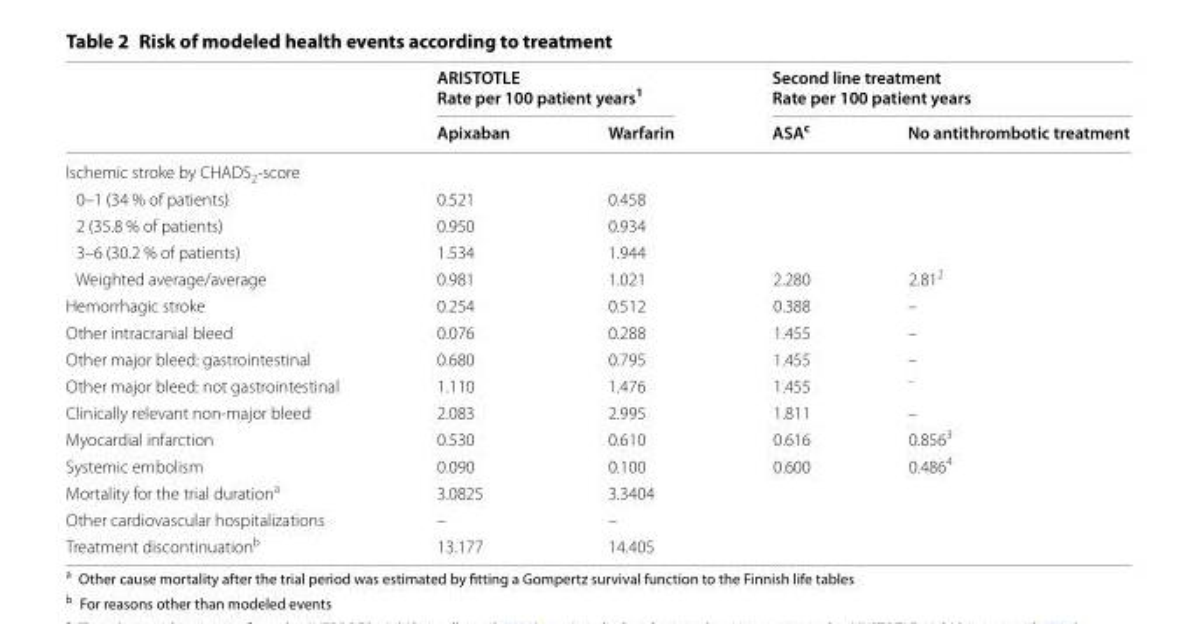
<table><thead><tr><td rowspan="2"></td><td colspan="2">ARISTOTLE Rate per 100 patient years<sup>1</sup></td><td colspan="2">Second line treatment Rate per 100 patient years</td></tr><tr><td>Apixaban</td><td>Warfarin</td><td>ASA<sup>c</sup></td><td>No antithrombotic treatment</td></tr></thead><tbody><tr><td colspan="5">Ischemic stroke by CHADS<sub>2</sub>-score</td></tr><tr><td>0–1 (34 % of patients)</td><td>0.521</td><td>0.458</td><td></td><td></td></tr><tr><td>2 (35.8 % of patients)</td><td>0.950</td><td>0.934</td><td></td><td></td></tr><tr><td>3–6 (30.2 % of patients)</td><td>1.534</td><td>1.944</td><td></td><td></td></tr><tr><td>Weighted average/average</td><td>0.981</td><td>1.021</td><td>2.280</td><td>2.81<sup>2</sup></td></tr><tr><td>Hemorrhagic stroke</td><td>0.254</td><td>0.512</td><td>0.388</td><td>–</td></tr><tr><td>Other intracranial bleed</td><td>0.076</td><td>0.288</td><td>1.455</td><td>–</td></tr><tr><td>Other major bleed: gastrointestinal</td><td>0.680</td><td>0.795</td><td>1.455</td><td>–</td></tr><tr><td>Other major bleed: not gastrointestinal</td><td>1.110</td><td>1.476</td><td>1.455</td><td><sup>–</sup></td></tr><tr><td>Clinically relevant non-major bleed</td><td>2.083</td><td>2.995</td><td>1.811</td><td>–</td></tr><tr><td>Myocardial infarction</td><td>0.530</td><td>0.610</td><td>0.616</td><td>0.856<sup>3</sup></td></tr><tr><td>Systemic embolism</td><td>0.090</td><td>0.100</td><td>0.600</td><td>0.486<sup>4</sup></td></tr><tr><td>Mortality for the trial duration<sup>a</sup></td><td>3.0825</td><td>3.3404</td><td></td><td></td></tr><tr><td>Other cardiovascular hospitalizations</td><td>–</td><td>–</td><td></td><td></td></tr><tr><td>Treatment discontinuation<sup>b</sup></td><td>13.177</td><td>14.405</td><td></td><td></td></tr></tbody></table>